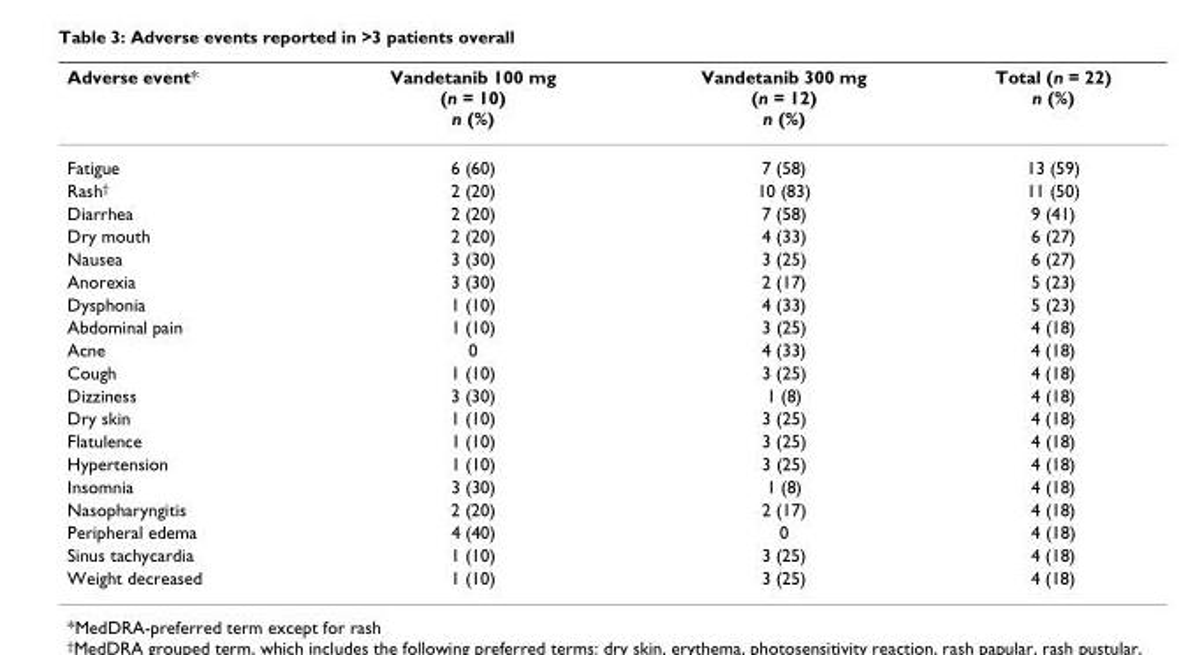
<table><thead><tr><td>Adverse event*</td><td>Vandetanib 100 mg (n = 10) n (%)</td><td>Vandetanib 300 mg (n = 12) n (%)</td><td>Total (n = 22) n (%)</td></tr></thead><tbody><tr><td>Fatigue</td><td>6 (60)</td><td>7 (58)</td><td>13 (59)</td></tr><tr><td>Rash<sup>†</sup></td><td>2 (20)</td><td>10 (83)</td><td>11 (50)</td></tr><tr><td>Diarrhea</td><td>2 (20)</td><td>7 (58)</td><td>9 (41)</td></tr><tr><td>Dry mouth</td><td>2 (20)</td><td>4 (33)</td><td>6 (27)</td></tr><tr><td>Nausea</td><td>3 (30)</td><td>3 (25)</td><td>6 (27)</td></tr><tr><td>Anorexia</td><td>3 (30)</td><td>2 (17)</td><td>5 (23)</td></tr><tr><td>Dysphonia</td><td>1 (10)</td><td>4 (33)</td><td>5 (23)</td></tr><tr><td>Abdominal pain</td><td>1 (10)</td><td>3 (25)</td><td>4 (18)</td></tr><tr><td>Acne</td><td>0</td><td>4 (33)</td><td>4 (18)</td></tr><tr><td>Cough</td><td>1 (10)</td><td>3 (25)</td><td>4 (18)</td></tr><tr><td>Dizziness</td><td>3 (30)</td><td>1 (8)</td><td>4 (18)</td></tr><tr><td>Dry skin</td><td>1 (10)</td><td>3 (25)</td><td>4 (18)</td></tr><tr><td>Flatulence</td><td>1 (10)</td><td>3 (25)</td><td>4 (18)</td></tr><tr><td>Hypertension</td><td>1 (10)</td><td>3 (25)</td><td>4 (18)</td></tr><tr><td>Insomnia</td><td>3 (30)</td><td>1 (8)</td><td>4 (18)</td></tr><tr><td>Nasopharyngitis</td><td>2 (20)</td><td>2 (17)</td><td>4 (18)</td></tr><tr><td>Peripheral edema</td><td>4 (40)</td><td>0</td><td>4 (18)</td></tr><tr><td>Sinus tachycardia</td><td>1 (10)</td><td>3 (25)</td><td>4 (18)</td></tr><tr><td>Weight decreased</td><td>1 (10)</td><td>3 (25)</td><td>4 (18)</td></tr></tbody></table>